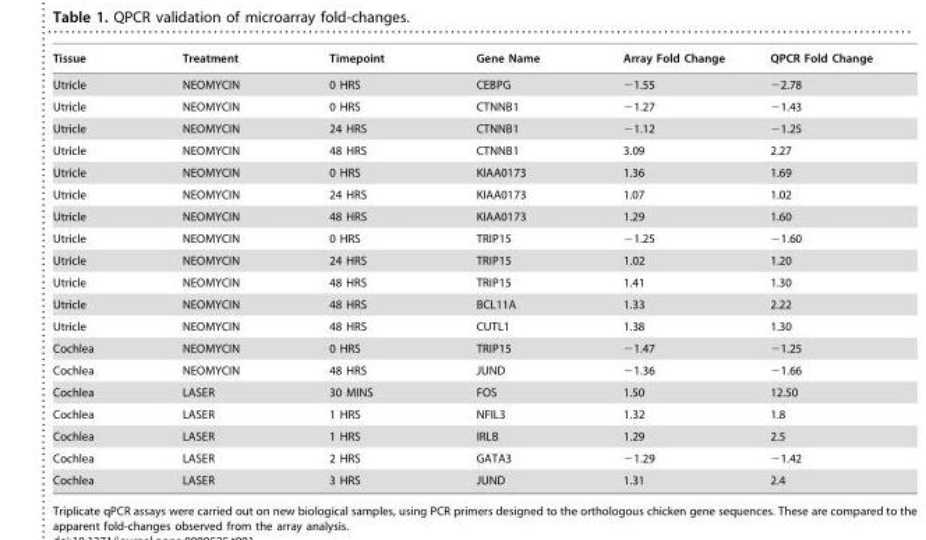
<table><thead><tr><td>Tissue</td><td>Treatment</td><td>Timepoint</td><td>Gene Name</td><td>Array Fold Change</td><td>QPCR Fold Change</td></tr></thead><tbody><tr><td>Utricle</td><td>NEOMYCIN</td><td>0 HRS</td><td>CEBPG</td><td>−1.55</td><td>−2.78</td></tr><tr><td>Utricle</td><td>NEOMYCIN</td><td>0 HRS</td><td>CTNNB1</td><td>−1.27</td><td>−1.43</td></tr><tr><td>Utricle</td><td>NEOMYCIN</td><td>24 HRS</td><td>CTNNB1</td><td>−1.12</td><td>−1.25</td></tr><tr><td>Utricle</td><td>NEOMYCIN</td><td>48 HRS</td><td>CTNNB1</td><td>3.09</td><td>2.27</td></tr><tr><td>Utricle</td><td>NEOMYCIN</td><td>0 HRS</td><td>KIAA0173</td><td>1.36</td><td>1.69</td></tr><tr><td>Utricle</td><td>NEOMYCIN</td><td>24 HRS</td><td>KIAA0173</td><td>1.07</td><td>1.02</td></tr><tr><td>Utricle</td><td>NEOMYCIN</td><td>48 HRS</td><td>KIAA0173</td><td>1.29</td><td>1.60</td></tr><tr><td>Utricle</td><td>NEOMYCIN</td><td>0 HRS</td><td>TRIP15</td><td>−1.25</td><td>−1.60</td></tr><tr><td>Utricle</td><td>NEOMYCIN</td><td>24 HRS</td><td>TRIP15</td><td>1.02</td><td>1.20</td></tr><tr><td>Utricle</td><td>NEOMYCIN</td><td>48 HRS</td><td>TRIP15</td><td>1.41</td><td>1.30</td></tr><tr><td>Utricle</td><td>NEOMYCIN</td><td>48 HRS</td><td>BCL11A</td><td>1.33</td><td>2.22</td></tr><tr><td>Utricle</td><td>NEOMYCIN</td><td>48 HRS</td><td>CUTL1</td><td>1.38</td><td>1.30</td></tr><tr><td>Cochlea</td><td>NEOMYCIN</td><td>0 HRS</td><td>TRIP15</td><td>−1.47</td><td>−1.25</td></tr><tr><td>Cochlea</td><td>NEOMYCIN</td><td>48 HRS</td><td>JUND</td><td>−1.36</td><td>−1.66</td></tr><tr><td>Cochlea</td><td>LASER</td><td>30 MINS</td><td>FOS</td><td>1.50</td><td>12.50</td></tr><tr><td>Cochlea</td><td>LASER</td><td>1 HRS</td><td>NFIL3</td><td>1.32</td><td>1.8</td></tr><tr><td>Cochlea</td><td>LASER</td><td>1 HRS</td><td>IRLB</td><td>1.29</td><td>2.5</td></tr><tr><td>Cochlea</td><td>LASER</td><td>2 HRS</td><td>GATA3</td><td>−1.29</td><td>−1.42</td></tr><tr><td>Cochlea</td><td>LASER</td><td>3 HRS</td><td>JUND</td><td>1.31</td><td>2.4</td></tr></tbody></table>